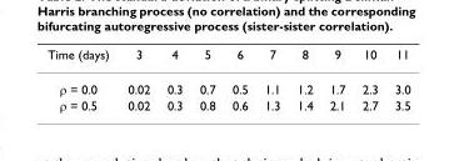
<table><thead><tr><td>Time (days)</td><td>3</td><td>4</td><td>5</td><td>6</td><td>7</td><td>8</td><td>9</td><td>10</td><td>11</td></tr></thead><tbody><tr><td>ρ = 0.0</td><td>0.02</td><td>0.3</td><td>0.7</td><td>0.5</td><td>1.1</td><td>1.2</td><td>1.7</td><td>2.3</td><td>3.0</td></tr><tr><td>ρ = 0.5</td><td>0.02</td><td>0.3</td><td>0.8</td><td>0.6</td><td>1.3</td><td>1.4</td><td>2.1</td><td>2.7</td><td>3.5</td></tr></tbody></table>